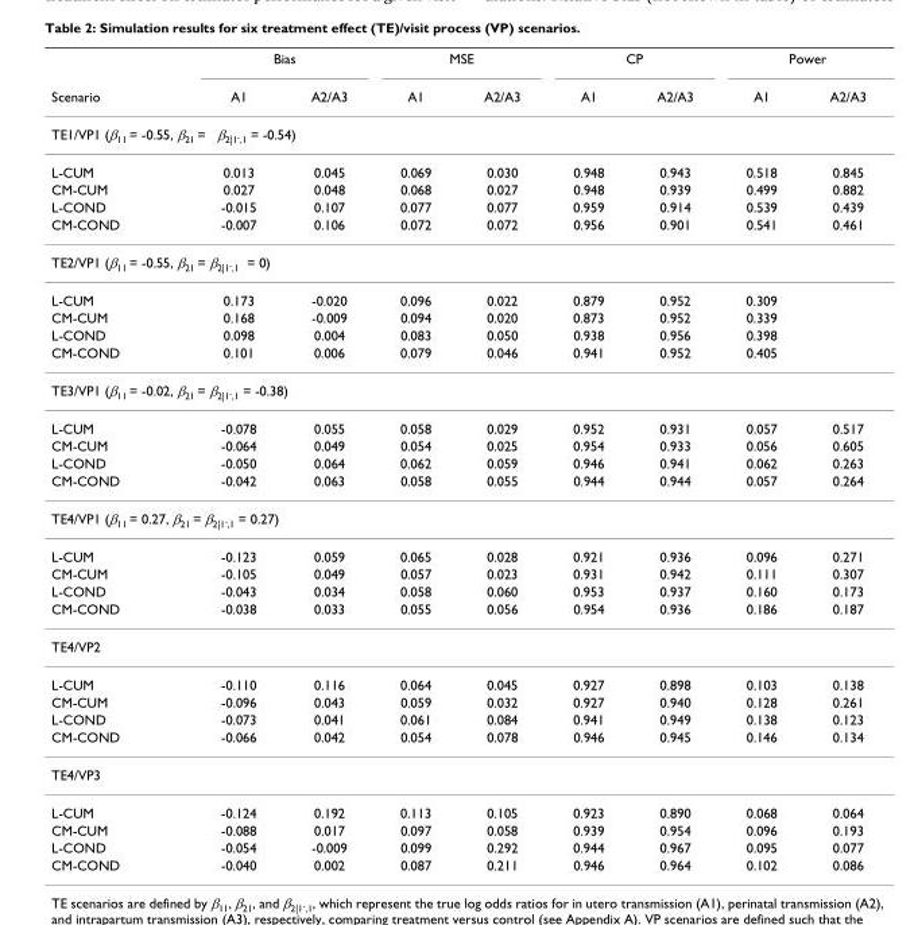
<table><thead><tr><td rowspan="2">Scenario</td><td colspan="2">Bias</td><td colspan="2">MSE</td><td colspan="2">CP</td><td colspan="2">Power</td></tr><tr><td>A1</td><td>A2/A3</td><td>A1</td><td>A2/A3</td><td>A1</td><td>A2/A3</td><td>A1</td><td>A2/A3</td></tr></thead><tbody><tr><td colspan="9">TE1/VP1 (β<sub>11</sub> = -0.55, β<sub>21</sub> = β<sub>2|1</sub><sup><sub>-</sub></sup><sub>,1</sub> = -0.54)</td></tr><tr><td>L-CUM</td><td>0.013</td><td>0.045</td><td>0.069</td><td>0.030</td><td>0.948</td><td>0.943</td><td>0.518</td><td>0.845</td></tr><tr><td>CM-CUM</td><td>0.027</td><td>0.048</td><td>0.068</td><td>0.027</td><td>0.948</td><td>0.939</td><td>0.499</td><td>0.882</td></tr><tr><td>L-COND</td><td>-0.015</td><td>0.107</td><td>0.077</td><td>0.077</td><td>0.959</td><td>0.914</td><td>0.539</td><td>0.439</td></tr><tr><td>CM-COND</td><td>-0.007</td><td>0.106</td><td>0.072</td><td>0.072</td><td>0.956</td><td>0.901</td><td>0.541</td><td>0.461</td></tr><tr><td colspan="9">TE2/VP1 (β<sub>11</sub> = -0.55, β<sub>21</sub> = β<sub>2|1</sub><sup><sub>-</sub></sup><sub>,1</sub> = 0)</td></tr><tr><td>L-CUM</td><td>0.173</td><td>-0.020</td><td>0.096</td><td>0.022</td><td>0.879</td><td>0.952</td><td>0.309</td><td></td></tr><tr><td>CM-CUM</td><td>0.168</td><td>-0.009</td><td>0.094</td><td>0.020</td><td>0.873</td><td>0.952</td><td>0.339</td><td></td></tr><tr><td>L-COND</td><td>0.098</td><td>0.004</td><td>0.083</td><td>0.050</td><td>0.938</td><td>0.956</td><td>0.398</td><td></td></tr><tr><td>CM-COND</td><td>0.101</td><td>0.006</td><td>0.079</td><td>0.046</td><td>0.941</td><td>0.952</td><td>0.405</td><td></td></tr><tr><td colspan="9">TE3/VP1 (β<sub>11</sub> = -0.02, β<sub>21</sub> = β<sub>2|1</sub><sup><sub>-</sub></sup><sub>,1</sub> = -0.38)</td></tr><tr><td>L-CUM</td><td>-0.078</td><td>0.055</td><td>0.058</td><td>0.029</td><td>0.952</td><td>0.931</td><td>0.057</td><td>0.517</td></tr><tr><td>CM-CUM</td><td>-0.064</td><td>0.049</td><td>0.054</td><td>0.025</td><td>0.954</td><td>0.933</td><td>0.056</td><td>0.605</td></tr><tr><td>L-COND</td><td>-0.050</td><td>0.064</td><td>0.062</td><td>0.059</td><td>0.946</td><td>0.941</td><td>0.062</td><td>0.263</td></tr><tr><td>CM-COND</td><td>-0.042</td><td>0.063</td><td>0.058</td><td>0.055</td><td>0.944</td><td>0.944</td><td>0.057</td><td>0.264</td></tr><tr><td colspan="9">TE4/VP1 (β<sub>11</sub> = 0.27, β<sub>21</sub> = β<sub>2|1</sub><sup><sub>-</sub></sup><sub>,1</sub> = 0.27)</td></tr><tr><td>L-CUM</td><td>-0.123</td><td>0.059</td><td>0.065</td><td>0.028</td><td>0.921</td><td>0.936</td><td>0.096</td><td>0.271</td></tr><tr><td>CM-CUM</td><td>-0.105</td><td>0.049</td><td>0.057</td><td>0.023</td><td>0.931</td><td>0.942</td><td>0.111</td><td>0.307</td></tr><tr><td>L-COND</td><td>-0.043</td><td>0.034</td><td>0.058</td><td>0.060</td><td>0.953</td><td>0.937</td><td>0.160</td><td>0.173</td></tr><tr><td>CM-COND</td><td>-0.038</td><td>0.033</td><td>0.055</td><td>0.056</td><td>0.954</td><td>0.936</td><td>0.186</td><td>0.187</td></tr><tr><td colspan="9">TE4/VP2</td></tr><tr><td>L-CUM</td><td>-0.110</td><td>0.116</td><td>0.064</td><td>0.045</td><td>0.927</td><td>0.898</td><td>0.103</td><td>0.138</td></tr><tr><td>CM-CUM</td><td>-0.096</td><td>0.043</td><td>0.059</td><td>0.032</td><td>0.927</td><td>0.940</td><td>0.128</td><td>0.261</td></tr><tr><td>L-COND</td><td>-0.073</td><td>0.041</td><td>0.061</td><td>0.084</td><td>0.941</td><td>0.949</td><td>0.138</td><td>0.123</td></tr><tr><td>CM-COND</td><td>-0.066</td><td>0.042</td><td>0.054</td><td>0.078</td><td>0.946</td><td>0.945</td><td>0.146</td><td>0.134</td></tr><tr><td colspan="9">TE4/VP3</td></tr><tr><td>L-CUM</td><td>-0.124</td><td>0.192</td><td>0.113</td><td>0.105</td><td>0.923</td><td>0.890</td><td>0.068</td><td>0.064</td></tr><tr><td>CM-CUM</td><td>-0.088</td><td>0.017</td><td>0.097</td><td>0.058</td><td>0.939</td><td>0.954</td><td>0.096</td><td>0.193</td></tr><tr><td>L-COND</td><td>-0.054</td><td>-0.009</td><td>0.099</td><td>0.292</td><td>0.944</td><td>0.967</td><td>0.095</td><td>0.077</td></tr><tr><td>CM-COND</td><td>-0.040</td><td>0.002</td><td>0.087</td><td>0.211</td><td>0.946</td><td>0.964</td><td>0.102</td><td>0.086</td></tr></tbody></table>